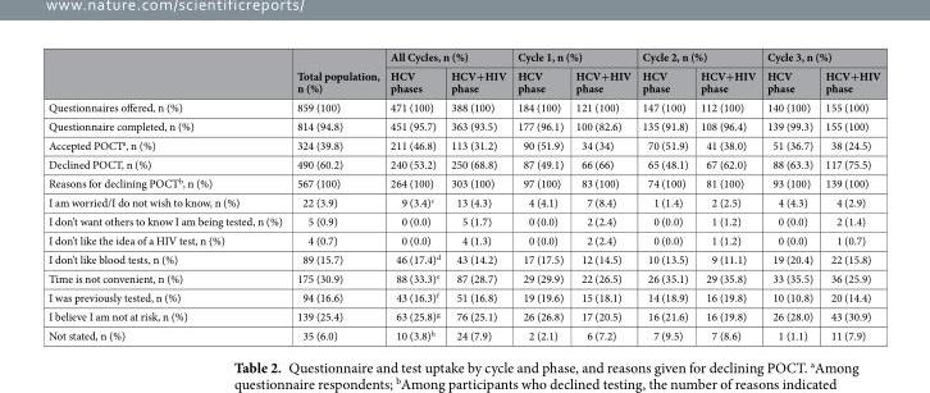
<table><thead><tr><td rowspan="2"></td><td rowspan="2">Total population, n (%)</td><td colspan="2">All Cycles, n (%)</td><td colspan="2">Cycle 1, n (%)</td><td colspan="2">Cycle 2, n (%)</td><td colspan="2">Cycle 3, n (%)</td></tr><tr><td>HCV phases</td><td>HCV+HIV phase</td><td>HCV phase</td><td>HCV+HIV phase</td><td>HCV phase</td><td>HCV+HIV phase</td><td>HCV phase</td><td>HCV+HIV phase</td></tr></thead><tbody><tr><td>Questionnaires offered, n (%)</td><td>859 (100)</td><td>471 (100)</td><td>388 (100)</td><td>184 (100)</td><td>121 (100)</td><td>147 (100)</td><td>112 (100)</td><td>140 (100)</td><td>155 (100)</td></tr><tr><td>Questionnaire completed, n (%)</td><td>814 (94.8)</td><td>451 (95.7)</td><td>363 (93.5)</td><td>177 (96.1)</td><td>100 (82.6)</td><td>135 (91.8)</td><td>108 (96.4)</td><td>139 (99.3)</td><td>155 (100)</td></tr><tr><td>Accepted POCT<sup>a</sup>, n (%)</td><td>324 (39.8)</td><td>211 (46.8)</td><td>113 (31.2)</td><td>90 (51.9)</td><td>34 (34)</td><td>70 (51.9)</td><td>41 (38.0)</td><td>51 (36.7)</td><td>38 (24.5)</td></tr><tr><td>Declined POCT, n (%)</td><td>490 (60.2)</td><td>240 (53.2)</td><td>250 (68.8)</td><td>87 (49.1)</td><td>66 (66)</td><td>65 (48.1)</td><td>67 (62.0)</td><td>88 (63.3)</td><td>117 (75.5)</td></tr><tr><td>Reasons for declining POCT<sup>b</sup>, n (%)</td><td>567 (100)</td><td>264 (100)</td><td>303 (100)</td><td>97 (100)</td><td>83 (100)</td><td>74 (100)</td><td>81 (100)</td><td>93 (100)</td><td>139 (100)</td></tr><tr><td>I am worried/I do not wish to know, n (%)</td><td>22 (3.9)</td><td>9 (3.4)<sup>c</sup></td><td>13 (4.3)</td><td>4 (4.1)</td><td>7 (8.4)</td><td>1 (1.4)</td><td>2 (2.5)</td><td>4 (4.3)</td><td>4 (2.9)</td></tr><tr><td>I don’t want others to know I am being tested, n (%)</td><td>5 (0.9)</td><td>0 (0.0)</td><td>5 (1.7)</td><td>0 (0.0)</td><td>2 (2.4)</td><td>0 (0.0)</td><td>1 (1.2)</td><td>0 (0.0)</td><td>2 (1.4)</td></tr><tr><td>I don’t like the idea of a HIV test, n (%)</td><td>4 (0.7)</td><td>0 (0.0)</td><td>4 (1.3)</td><td>0 (0.0)</td><td>2 (2.4)</td><td>0 (0.0)</td><td>1 (1.2)</td><td>0 (0.0)</td><td>1 (0.7)</td></tr><tr><td>I don’t like blood tests, n (%)</td><td>89 (15.7)</td><td>46 (17.4)<sup>d</sup></td><td>43 (14.2)</td><td>17 (17.5)</td><td>12 (14.5)</td><td>10 (13.5)</td><td>9 (11.1)</td><td>19 (20.4)</td><td>22 (15.8)</td></tr><tr><td>Time is not convenient, n (%)</td><td>175 (30.9)</td><td>88 (33.3)<sup>e</sup></td><td>87 (28.7)</td><td>29 (29.9)</td><td>22 (26.5)</td><td>26 (35.1)</td><td>29 (35.8)</td><td>33 (35.5)</td><td>36 (25.9)</td></tr><tr><td>I was previously tested, n (%)</td><td>94 (16.6)</td><td>43 (16.3)<sup>f</sup></td><td>51 (16.8)</td><td>19 (19.6)</td><td>15 (18.1)</td><td>14 (18.9)</td><td>16 (19.8)</td><td>10 (10.8)</td><td>20 (14.4)</td></tr><tr><td>I believe I am not at risk, n (%)</td><td>139 (25.4)</td><td>63 (25.8)<sup>g</sup></td><td>76 (25.1)</td><td>26 (26.8)</td><td>17 (20.5)</td><td>16 (21.6)</td><td>16 (19.8)</td><td>26 (28.0)</td><td>43 (30.9)</td></tr><tr><td>Not stated, n (%)</td><td>35 (6.0)</td><td>10 (3.8)<sup>h</sup></td><td>24 (7.9)</td><td>2 (2.1)</td><td>6 (7.2)</td><td>7 (9.5)</td><td>7 (8.6)</td><td>1 (1.1)</td><td>11 (7.9)</td></tr></tbody></table>